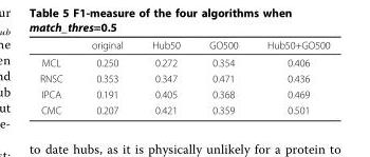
<table><thead><tr><td></td><td>original</td><td>Hub50</td><td>GO500</td><td>Hub50+GO500</td></tr></thead><tbody><tr><td>MCL</td><td>0.250</td><td>0.272</td><td>0.354</td><td>0.406</td></tr><tr><td>RNSC</td><td>0.353</td><td>0.347</td><td>0.471</td><td>0.436</td></tr><tr><td>IPCA</td><td>0.191</td><td>0.405</td><td>0.368</td><td>0.469</td></tr><tr><td>CMC</td><td>0.207</td><td>0.421</td><td>0.359</td><td>0.501</td></tr></tbody></table>